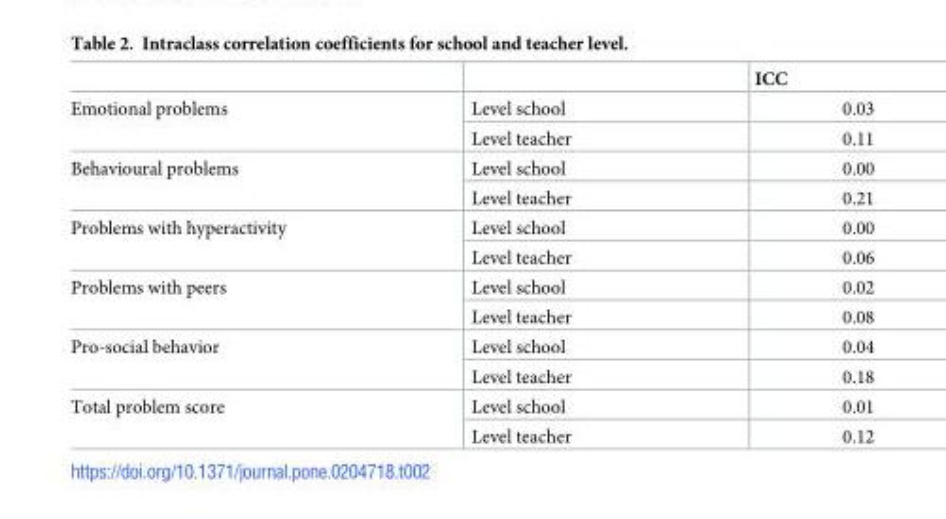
<table><thead><tr><td></td><td></td><td>ICC</td></tr></thead><tbody><tr><td rowspan="2">Emotional problems</td><td>Level school</td><td>0.03</td></tr><tr><td>Level teacher</td><td>0.11</td></tr><tr><td rowspan="2">Behavioural problems</td><td>Level school</td><td>0.00</td></tr><tr><td>Level teacher</td><td>0.21</td></tr><tr><td rowspan="2">Problems with hyperactivity</td><td>Level school</td><td>0.00</td></tr><tr><td>Level teacher</td><td>0.06</td></tr><tr><td rowspan="2">Problems with peers</td><td>Level school</td><td>0.02</td></tr><tr><td>Level teacher</td><td>0.08</td></tr><tr><td rowspan="2">Pro-social behavior</td><td>Level school</td><td>0.04</td></tr><tr><td>Level teacher</td><td>0.18</td></tr><tr><td rowspan="2">Total problem score</td><td>Level school</td><td>0.01</td></tr><tr><td>Level teacher</td><td>0.12</td></tr></tbody></table>